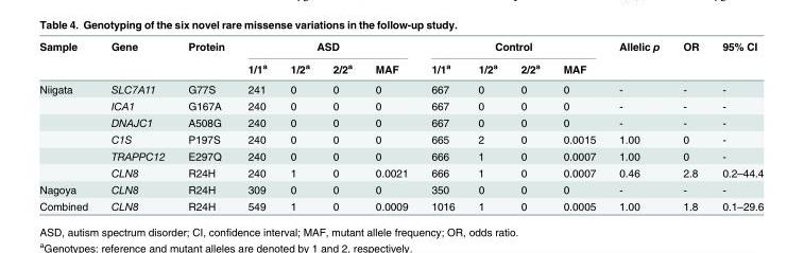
<table><thead><tr><td rowspan="2">Sample</td><td rowspan="2">Gene</td><td rowspan="2">Protein</td><td colspan="4">ASD</td><td colspan="4">Control</td><td rowspan="2">Allelic p</td><td rowspan="2">OR</td><td rowspan="2">95% CI</td></tr><tr><td>1/1<sup>a</sup></td><td>1/2<sup>a</sup></td><td>2/2<sup>a</sup></td><td>MAF</td><td>1/1<sup>a</sup></td><td>1/2<sup>a</sup></td><td>2/2<sup>a</sup></td><td>MAF</td></tr></thead><tbody><tr><td rowspan="6">Niigata</td><td>SLC7A11</td><td>G77S</td><td>241</td><td>0</td><td>0</td><td>0</td><td>667</td><td>0</td><td>0</td><td>0</td><td>-</td><td>-</td><td>-</td></tr><tr><td>ICA1</td><td>G167A</td><td>240</td><td>0</td><td>0</td><td>0</td><td>667</td><td>0</td><td>0</td><td>0</td><td>-</td><td>-</td><td>-</td></tr><tr><td>DNAJC1</td><td>A508G</td><td>240</td><td>0</td><td>0</td><td>0</td><td>667</td><td>0</td><td>0</td><td>0</td><td>-</td><td>-</td><td>-</td></tr><tr><td>C1S</td><td>P197S</td><td>240</td><td>0</td><td>0</td><td>0</td><td>665</td><td>2</td><td>0</td><td>0.0015</td><td>1.00</td><td>0</td><td>-</td></tr><tr><td>TRAPPC12</td><td>E297Q</td><td>240</td><td>0</td><td>0</td><td>0</td><td>666</td><td>1</td><td>0</td><td>0.0007</td><td>1.00</td><td>0</td><td>-</td></tr><tr><td>CLN8</td><td>R24H</td><td>240</td><td>1</td><td>0</td><td>0.0021</td><td>666</td><td>1</td><td>0</td><td>0.0007</td><td>0.46</td><td>2.8</td><td>0.2–44.4</td></tr><tr><td>Nagoya</td><td>CLN8</td><td>R24H</td><td>309</td><td>0</td><td>0</td><td>0</td><td>350</td><td>0</td><td>0</td><td>0</td><td>-</td><td>-</td><td>-</td></tr><tr><td>Combined</td><td>CLN8</td><td>R24H</td><td>549</td><td>1</td><td>0</td><td>0.0009</td><td>1016</td><td>1</td><td>0</td><td>0.0005</td><td>1.00</td><td>1.8</td><td>0.1–29.6</td></tr></tbody></table>